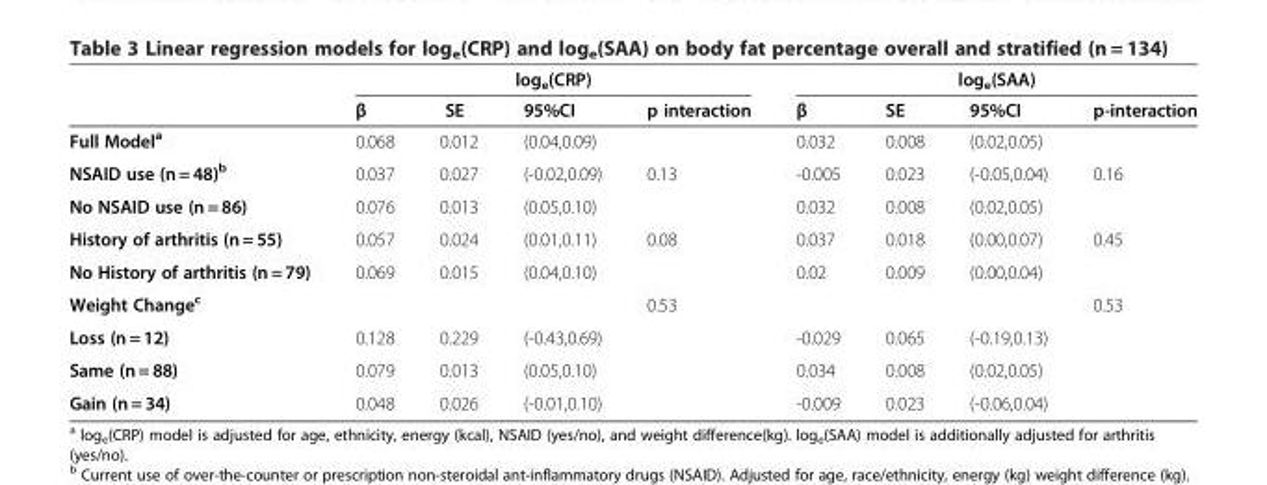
<table><thead><tr><td rowspan="2"></td><td colspan="4">log<sub>e</sub>(CRP)</td><td colspan="4">log<sub>e</sub>(SAA)</td></tr><tr><td>β</td><td>SE</td><td>95%CI</td><td>p interaction</td><td>β</td><td>SE</td><td>95%CI</td><td>p-interaction</td></tr></thead><tbody><tr><td>Full Model<sup>a</sup></td><td>0.068</td><td>0.012</td><td>(0.04,0.09)</td><td></td><td>0.032</td><td>0.008</td><td>(0.02,0.05)</td><td></td></tr><tr><td>NSAID use (n = 48)<sup>b</sup></td><td>0.037</td><td>0.027</td><td>(-0.02,0.09)</td><td>0.13</td><td>-0.005</td><td>0.023</td><td>(-0.05,0.04)</td><td>0.16</td></tr><tr><td>No NSAID use (n = 86)</td><td>0.076</td><td>0.013</td><td>(0.05,0.10)</td><td></td><td>0.032</td><td>0.008</td><td>(0.02,0.05)</td><td></td></tr><tr><td>History of arthritis (n = 55)</td><td>0.057</td><td>0.024</td><td>(0.01,0.11)</td><td>0.08</td><td>0.037</td><td>0.018</td><td>(0.00,0.07)</td><td>0.45</td></tr><tr><td>No History of arthritis (n = 79)</td><td>0.069</td><td>0.015</td><td>(0.04,0.10)</td><td></td><td>0.02</td><td>0.009</td><td>(0.00,0.04)</td><td></td></tr><tr><td>Weight Change<sup>c</sup></td><td></td><td></td><td></td><td>0.53</td><td></td><td></td><td></td><td>0.53</td></tr><tr><td>Loss (n = 12)</td><td>0.128</td><td>0.229</td><td>(-0.43,0.69)</td><td></td><td>-0.029</td><td>0.065</td><td>(-0.19,0.13)</td><td></td></tr><tr><td>Same (n = 88)</td><td>0.079</td><td>0.013</td><td>(0.05,0.10)</td><td></td><td>0.034</td><td>0.008</td><td>(0.02,0.05)</td><td></td></tr><tr><td>Gain (n = 34)</td><td>0.048</td><td>0.026</td><td>(-0.01,0.10)</td><td></td><td>-0.009</td><td>0.023</td><td>(-0.06,0.04)</td><td></td></tr></tbody></table>